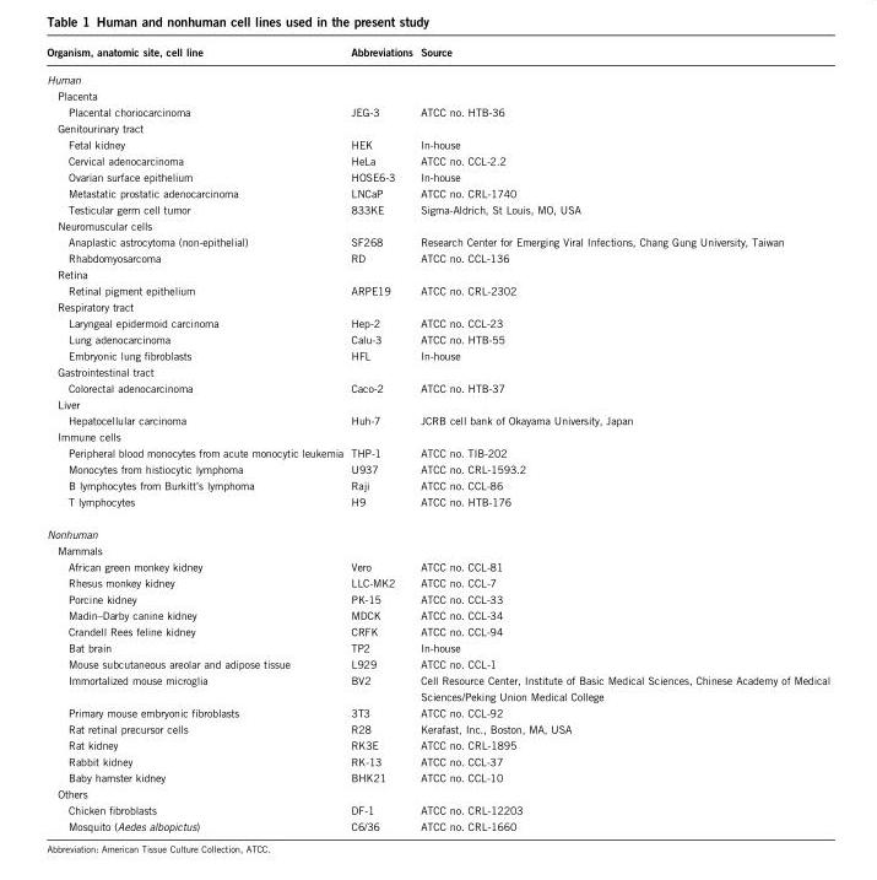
<table><thead><tr><td>Organism, anatomic site, cell line</td><td>Abbreviations</td><td>Source</td></tr></thead><tbody><tr><td colspan="3">Human</td></tr><tr><td colspan="3">Placenta</td></tr><tr><td>Placental choriocarcinoma</td><td>JEG-3</td><td>ATCC no. HTB-36</td></tr><tr><td colspan="3">Genitourinary tract</td></tr><tr><td>Fetal kidney</td><td>HEK</td><td>In-house</td></tr><tr><td>Cervical adenocarcinoma</td><td>HeLa</td><td>ATCC no. CCL-2.2</td></tr><tr><td>Ovarian surface epithelium</td><td>HOSE6-3</td><td>In-house</td></tr><tr><td>Metastatic prostatic adenocarcinoma</td><td>LNCaP</td><td>ATCC no. CRL-1740</td></tr><tr><td>Testicular germ cell tumor</td><td>833KE</td><td>Sigma-Aldrich, St Louis, MO, USA</td></tr><tr><td colspan="3">Neuromuscular cells</td></tr><tr><td>Anaplastic astrocytoma (non-epithelial)</td><td>SF268</td><td>Research Center for Emerging Viral Infections, Chang Gung University, Taiwan</td></tr><tr><td>Rhabdomyosarcoma</td><td>RD</td><td>ATCC no. CCL-136</td></tr><tr><td colspan="3">Retina</td></tr><tr><td>Retinal pigment epithelium</td><td>ARPE19</td><td>ATCC no. CRL-2302</td></tr><tr><td colspan="3">Respiratory tract</td></tr><tr><td>Laryngeal epidermoid carcinoma</td><td>Hep-2</td><td>ATCC no. CCL-23</td></tr><tr><td>Lung adenocarcinoma</td><td>Calu-3</td><td>ATCC no. HTB-55</td></tr><tr><td>Embryonic lung fibroblasts</td><td>HFL</td><td>In-house</td></tr><tr><td colspan="3">Gastrointestinal tract</td></tr><tr><td>Colorectal adenocarcinoma</td><td>Caco-2</td><td>ATCC no. HTB-37</td></tr><tr><td colspan="3">Liver</td></tr><tr><td>Hepatocellular carcinoma</td><td>Huh-7</td><td>JCRB cell bank of Okayama University, Japan</td></tr><tr><td colspan="3">Immune cells</td></tr><tr><td>Peripheral blood monocytes from acute monocytic leukemia</td><td>THP-1</td><td>ATCC no. TIB-202</td></tr><tr><td>Monocytes from histiocytic lymphoma</td><td>U937</td><td>ATCC no. CRL-1593.2</td></tr><tr><td>B lymphocytes from Burkitt’s lymphoma</td><td>Raji</td><td>ATCC no. CCL-86</td></tr><tr><td>T lymphocytes</td><td>H9</td><td>ATCC no. HTB-176</td></tr><tr><td colspan="3">Nonhuman</td></tr><tr><td colspan="3">Mammals</td></tr><tr><td>African green monkey kidney</td><td>Vero</td><td>ATCC no. CCL-81</td></tr><tr><td>Rhesus monkey kidney</td><td>LLC-MK2</td><td>ATCC no. CCL-7</td></tr><tr><td>Porcine kidney</td><td>PK-15</td><td>ATCC no. CCL-33</td></tr><tr><td>Madin–Darby canine kidney</td><td>MDCK</td><td>ATCC no. CCL-34</td></tr><tr><td>Crandell Rees feline kidney</td><td>CRFK</td><td>ATCC no. CCL-94</td></tr><tr><td>Bat brain</td><td>TP2</td><td>In-house</td></tr><tr><td>Mouse subcutaneous areolar and adipose tissue</td><td>L929</td><td>ATCC no. CCL-1</td></tr><tr><td>Immortalized mouse microglia</td><td>BV2</td><td>Cell Resource Center, Institute of Basic Medical Sciences, Chinese Academy of Medical Sciences/Peking Union Medical College</td></tr><tr><td>Primary mouse embryonic fibroblasts</td><td>3T3</td><td>ATCC no. CCL-92</td></tr><tr><td>Rat retinal precursor cells</td><td>R28</td><td>Kerafast, Inc., Boston, MA, USA</td></tr><tr><td>Rat kidney</td><td>RK3E</td><td>ATCC no. CRL-1895</td></tr><tr><td>Rabbit kidney</td><td>RK-13</td><td>ATCC no. CCL-37</td></tr><tr><td>Baby hamster kidney</td><td>BHK21</td><td>ATCC no. CCL-10</td></tr><tr><td colspan="3">Others</td></tr><tr><td>Chicken fibroblasts</td><td>DF-1</td><td>ATCC no. CRL-12203</td></tr><tr><td>Mosquito (Aedes albopictus)</td><td>C6/36</td><td>ATCC no. CRL-1660</td></tr></tbody></table>